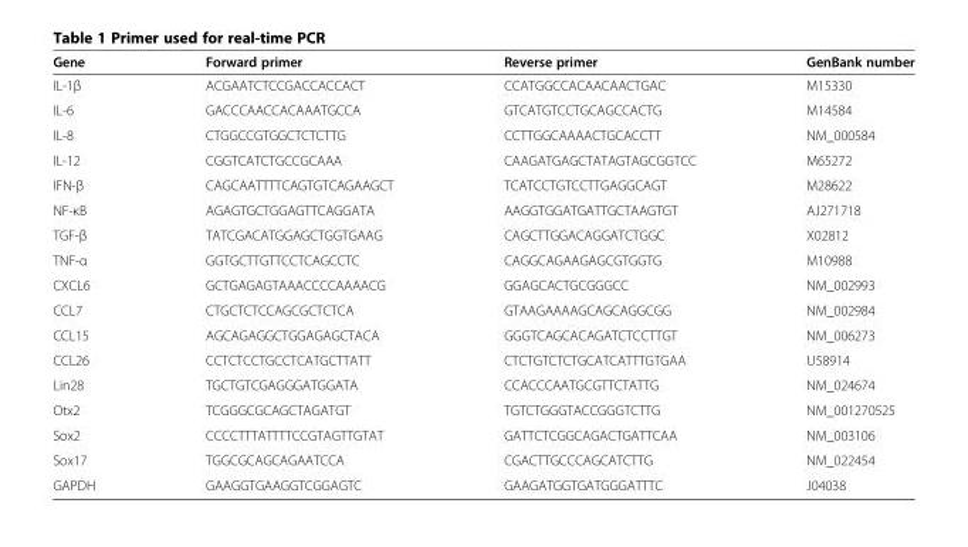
<table><thead><tr><td>Gene</td><td>Forward primer</td><td>Reverse primer</td><td>GenBank number</td></tr></thead><tbody><tr><td>IL-1β</td><td>ACGAATCTCCGACCACCACT</td><td>CCATGGCCACAACAACTGAC</td><td>M15330</td></tr><tr><td>IL-6</td><td>GACCCAACCACAAATGCCA</td><td>GTCATGTCCTGCAGCCACTG</td><td>M14584</td></tr><tr><td>IL-8</td><td>CTGGCCGTGGCTCTCTTG</td><td>CCTTGGCAAAACTGCACCTT</td><td>NM_000584</td></tr><tr><td>IL-12</td><td>CGGTCATCTGCCGCAAA</td><td>CAAGATGAGCTATAGTAGCGGTCC</td><td>M65272</td></tr><tr><td>IFN-β</td><td>CAGCAATTTTCAGTGTCAGAAGCT</td><td>TCATCCTGTCCTTGAGGCAGT</td><td>M28622</td></tr><tr><td>NF-κB</td><td>AGAGTGCTGGAGTTCAGGATA</td><td>AAGGTGGATGATTGCTAAGTGT</td><td>AJ271718</td></tr><tr><td>TGF-β</td><td>TATCGACATGGAGCTGGTGAAG</td><td>CAGCTTGGACAGGATCTGGC</td><td>X02812</td></tr><tr><td>TNF-α</td><td>GGTGCTTGTTCCTCAGCCTC</td><td>CAGGCAGAAGAGCGTGGTG</td><td>M10988</td></tr><tr><td>CXCL6</td><td>GCTGAGAGTAAACCCCAAAACG</td><td>GGAGCACTGCGGGCC</td><td>NM_002993</td></tr><tr><td>CCL7</td><td>CTGCTCTCCAGCGCTCTCA</td><td>GTAAGAAAAGCAGCAGGCGG</td><td>NM_002984</td></tr><tr><td>CCL15</td><td>AGCAGAGGCTGGAGAGCTACA</td><td>GGGTCAGCACAGATCTCCTTGT</td><td>NM_006273</td></tr><tr><td>CCL26</td><td>CCTCTCCTGCCTCATGCTTATT</td><td>CTCTGTCTCTGCATCATTTGTGAA</td><td>U58914</td></tr><tr><td>Lin28</td><td>TGCTGTCGAGGGATGGATA</td><td>CCACCCAATGCGTTCTATTG</td><td>NM_024674</td></tr><tr><td>Otx2</td><td>TCGGGCGCAGCTAGATGT</td><td>TGTCTGGGTACCGGGTCTTG</td><td>NM_001270525</td></tr><tr><td>Sox2</td><td>CCCCTTTATTTTCCGTAGTTGTAT</td><td>GATTCTCGGCAGACTGATTCAA</td><td>NM_003106</td></tr><tr><td>Sox17</td><td>TGGCGCAGCAGAATCCA</td><td>CGACTTGCCCAGCATCTTG</td><td>NM_022454</td></tr><tr><td>GAPDH</td><td>GAAGGTGAAGGTCGGAGTC</td><td>GAAGATGGTGATGGGATTTC</td><td>J04038</td></tr></tbody></table>